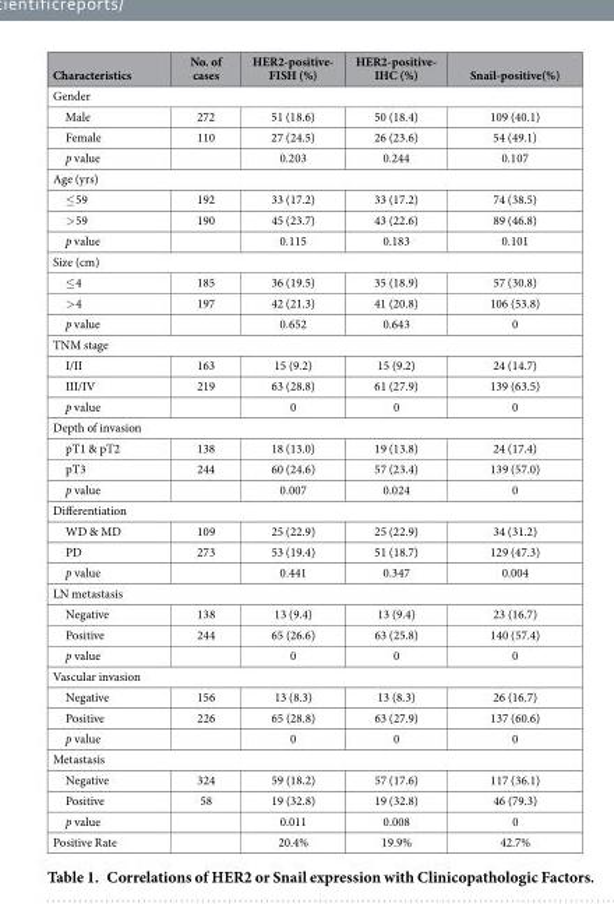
<table><thead><tr><td>Characteristics</td><td>No. of cases</td><td>HER2-positive- FISH (%)</td><td>HER2-positive- IHC (%)</td><td>Snail-positive(%)</td></tr></thead><tbody><tr><td colspan="5">Gender</td></tr><tr><td>Male</td><td>272</td><td>51 (18.6)</td><td>50 (18.4)</td><td>109 (40.1)</td></tr><tr><td>Female</td><td>110</td><td>27 (24.5)</td><td>26 (23.6)</td><td>54 (49.1)</td></tr><tr><td>p value</td><td></td><td>0.203</td><td>0.244</td><td>0.107</td></tr><tr><td colspan="5">Age (yrs)</td></tr><tr><td>≤ 59</td><td>192</td><td>33 (17.2)</td><td>33 (17.2)</td><td>74 (38.5)</td></tr><tr><td>&gt; 59</td><td>190</td><td>45 (23.7)</td><td>43 (22.6)</td><td>89 (46.8)</td></tr><tr><td>p value</td><td></td><td>0.115</td><td>0.183</td><td>0.101</td></tr><tr><td colspan="5">Size (cm)</td></tr><tr><td>≤ 4</td><td>185</td><td>36 (19.5)</td><td>35 (18.9)</td><td>57 (30.8)</td></tr><tr><td>&gt; 4</td><td>197</td><td>42 (21.3)</td><td>41 (20.8)</td><td>106 (53.8)</td></tr><tr><td>p value</td><td></td><td>0.652</td><td>0.643</td><td>0</td></tr><tr><td colspan="5">TNM stage</td></tr><tr><td>I/II</td><td>163</td><td>15 (9.2)</td><td>15 (9.2)</td><td>24 (14.7)</td></tr><tr><td>III/IV</td><td>219</td><td>63 (28.8)</td><td>61 (27.9)</td><td>139 (63.5)</td></tr><tr><td>p value</td><td></td><td>0</td><td>0</td><td>0</td></tr><tr><td colspan="5">Depth of invasion</td></tr><tr><td>pT1 &amp; pT2</td><td>138</td><td>18 (13.0)</td><td>19 (13.8)</td><td>24 (17.4)</td></tr><tr><td>pT3</td><td>244</td><td>60 (24.6)</td><td>57 (23.4)</td><td>139 (57.0)</td></tr><tr><td>p value</td><td></td><td>0.007</td><td>0.024</td><td>0</td></tr><tr><td colspan="5">Differentiation</td></tr><tr><td>WD &amp; MD</td><td>109</td><td>25 (22.9)</td><td>25 (22.9)</td><td>34 (31.2)</td></tr><tr><td>PD</td><td>273</td><td>53 (19.4)</td><td>51 (18.7)</td><td>129 (47.3)</td></tr><tr><td>p value</td><td></td><td>0.441</td><td>0.347</td><td>0.004</td></tr><tr><td colspan="5">LN metastasis</td></tr><tr><td>Negative</td><td>138</td><td>13 (9.4)</td><td>13 (9.4)</td><td>23 (16.7)</td></tr><tr><td>Positive</td><td>244</td><td>65 (26.6)</td><td>63 (25.8)</td><td>140 (57.4)</td></tr><tr><td>p value</td><td></td><td>0</td><td>0</td><td>0</td></tr><tr><td colspan="5">Vascular invasion</td></tr><tr><td>Negative</td><td>156</td><td>13 (8.3)</td><td>13 (8.3)</td><td>26 (16.7)</td></tr><tr><td>Positive</td><td>226</td><td>65 (28.8)</td><td>63 (27.9)</td><td>137 (60.6)</td></tr><tr><td>p value</td><td></td><td>0</td><td>0</td><td>0</td></tr><tr><td colspan="5">Metastasis</td></tr><tr><td>Negative</td><td>324</td><td>59 (18.2)</td><td>57 (17.6)</td><td>117 (36.1)</td></tr><tr><td>Positive</td><td>58</td><td>19 (32.8)</td><td>19 (32.8)</td><td>46 (79.3)</td></tr><tr><td>p value</td><td></td><td>0.011</td><td>0.008</td><td>0</td></tr><tr><td>Positive Rate</td><td></td><td>20.4%</td><td>19.9%</td><td>42.7%</td></tr></tbody></table>